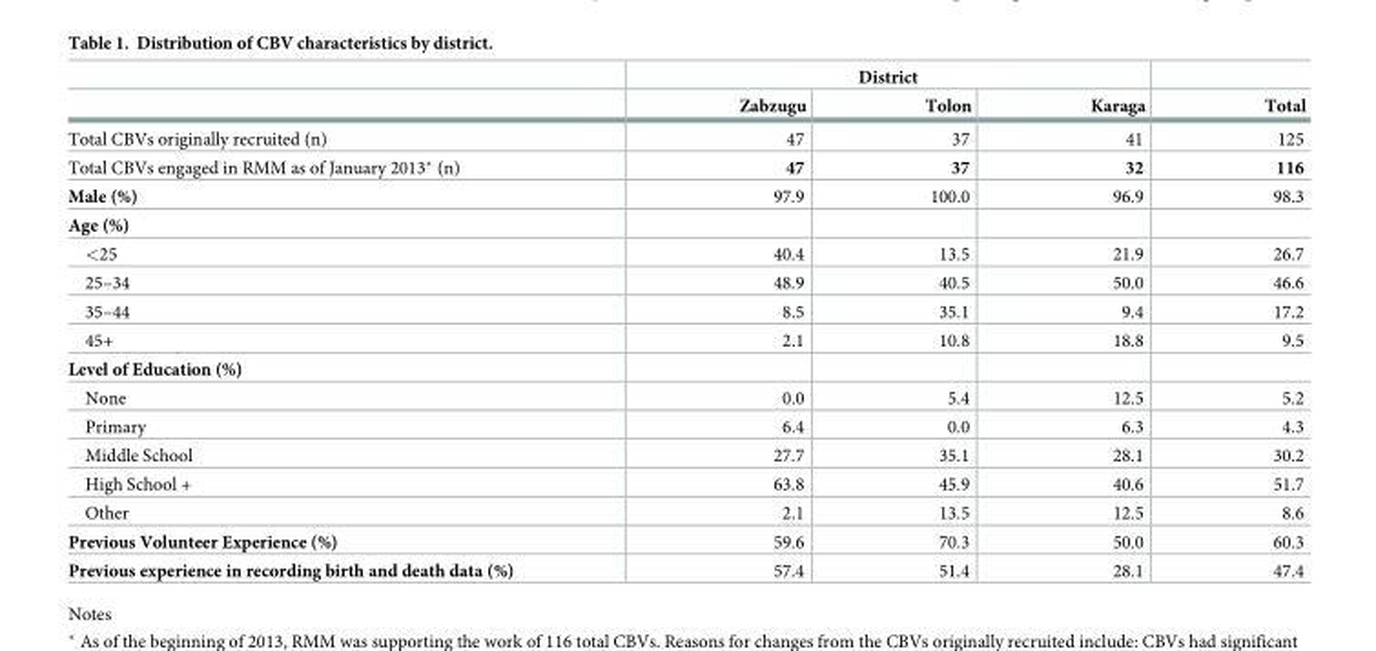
<table><thead><tr><td rowspan="2"></td><td colspan="3">District</td><td rowspan="2">Total</td></tr><tr><td>Zabzugu</td><td>Tolon</td><td>Karaga</td></tr></thead><tbody><tr><td>Total CBVs originally recruited (n)</td><td>47</td><td>37</td><td>41</td><td>125</td></tr><tr><td>Total CBVs engaged in RMM as of January 2013* (n)</td><td>47</td><td>37</td><td>32</td><td>116</td></tr><tr><td>Male (%)</td><td>97.9</td><td>100.0</td><td>96.9</td><td>98.3</td></tr><tr><td colspan="5">Age (%)</td></tr><tr><td>&lt;25</td><td>40.4</td><td>13.5</td><td>21.9</td><td>26.7</td></tr><tr><td>25–34</td><td>48.9</td><td>40.5</td><td>50.0</td><td>46.6</td></tr><tr><td>35–44</td><td>8.5</td><td>35.1</td><td>9.4</td><td>17.2</td></tr><tr><td>45+</td><td>2.1</td><td>10.8</td><td>18.8</td><td>9.5</td></tr><tr><td colspan="5">Level of Education (%)</td></tr><tr><td>None</td><td>0.0</td><td>5.4</td><td>12.5</td><td>5.2</td></tr><tr><td>Primary</td><td>6.4</td><td>0.0</td><td>6.3</td><td>4.3</td></tr><tr><td>Middle School</td><td>27.7</td><td>35.1</td><td>28.1</td><td>30.2</td></tr><tr><td>High School +</td><td>63.8</td><td>45.9</td><td>40.6</td><td>51.7</td></tr><tr><td>Other</td><td>2.1</td><td>13.5</td><td>12.5</td><td>8.6</td></tr><tr><td>Previous Volunteer Experience (%)</td><td>59.6</td><td>70.3</td><td>50.0</td><td>60.3</td></tr><tr><td>Previous experience in recording birth and death data (%)</td><td>57.4</td><td>51.4</td><td>28.1</td><td>47.4</td></tr></tbody></table>